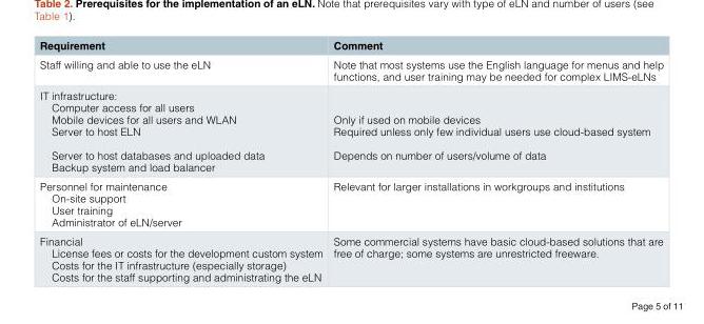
<table><thead><tr><td>Requirement</td><td>Comment</td></tr></thead><tbody><tr><td>Staff willing and able to use the eLN</td><td>Note that most systems use the English language for menus and help functions, and user training may be needed for complex LIMS-eLNs</td></tr><tr><td>IT infrastructure: Computer access for all users Mobile devices for all users and WLAN Server to host ELN Server to host databases and uploaded data Backup system and load balancer</td><td>Only if used on mobile devices Required unless only few individual users use cloud-based system Depends on number of users/volume of data</td></tr><tr><td>Personnel for maintenance On-site support User training Administrator of eLN/server Financial License fees or costs for the development custom system Costs for the IT infrastructure (especially storage) Costs for the staff supporting and administrating the eLN</td><td>Relevant for larger installations in workgroups and institutions Some commercial systems have basic cloud-based solutions that are free of charge; some systems are unrestricted freeware.</td></tr></tbody></table>